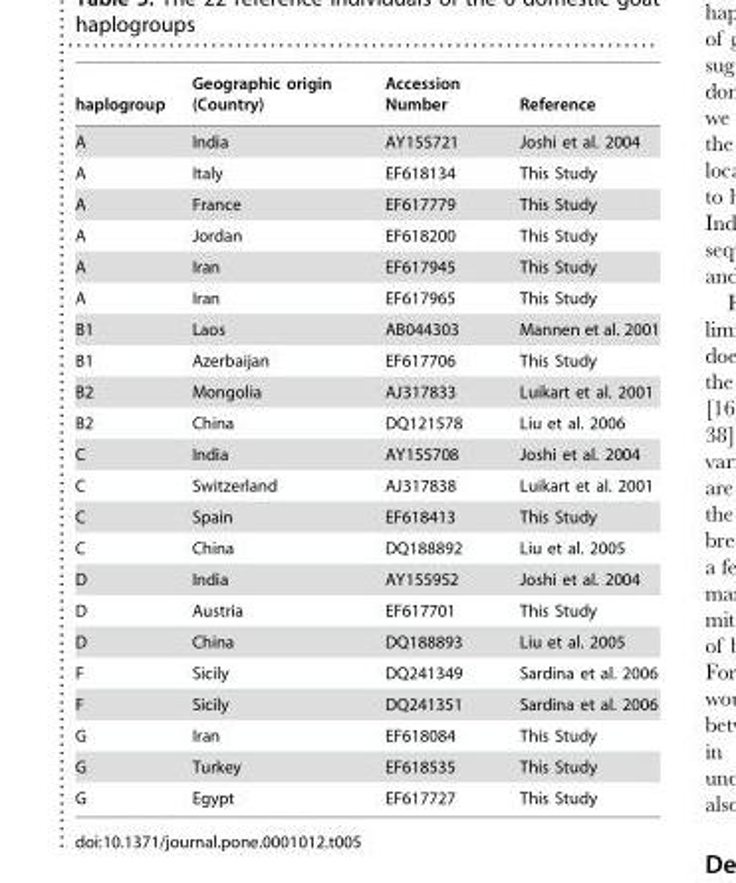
<table><thead><tr><td>haplogroup</td><td>Geographic origin (Country)</td><td>Accession Number</td><td>Reference</td></tr></thead><tbody><tr><td>A</td><td>India</td><td>AY155721</td><td>Joshi et al. 2004</td></tr><tr><td>A</td><td>Italy</td><td>EF618134</td><td>This Study</td></tr><tr><td>A</td><td>France</td><td>EF617779</td><td>This Study</td></tr><tr><td>A</td><td>Jordan</td><td>EF618200</td><td>This Study</td></tr><tr><td>A</td><td>Iran</td><td>EF617945</td><td>This Study</td></tr><tr><td>A</td><td>Iran</td><td>EF617965</td><td>This Study</td></tr><tr><td>B1</td><td>Laos</td><td>AB044303</td><td>Mannen et al. 2001</td></tr><tr><td>B1</td><td>Azerbaijan</td><td>EF617706</td><td>This Study</td></tr><tr><td>B2</td><td>Mongolia</td><td>AJ317833</td><td>Luikart et al. 2001</td></tr><tr><td>B2</td><td>China</td><td>DQ121578</td><td>Liu et al. 2006</td></tr><tr><td>C</td><td>India</td><td>AY155708</td><td>Joshi et al. 2004</td></tr><tr><td>C</td><td>Switzerland</td><td>AJ317838</td><td>Luikart et al. 2001</td></tr><tr><td>C</td><td>Spain</td><td>EF618413</td><td>This Study</td></tr><tr><td>C</td><td>China</td><td>DQ188892</td><td>Liu et al. 2005</td></tr><tr><td>D</td><td>India</td><td>AY155952</td><td>Joshi et al. 2004</td></tr><tr><td>D</td><td>Austria</td><td>EF617701</td><td>This Study</td></tr><tr><td>D</td><td>China</td><td>DQ188893</td><td>Liu et al. 2005</td></tr><tr><td>F</td><td>Sicily</td><td>DQ241349</td><td>Sardina et al. 2006</td></tr><tr><td>F</td><td>Sicily</td><td>DQ241351</td><td>Sardina et al. 2006</td></tr><tr><td>G</td><td>Iran</td><td>EF618084</td><td>This Study</td></tr><tr><td>G</td><td>Turkey</td><td>EF618535</td><td>This Study</td></tr><tr><td>G</td><td>Egypt</td><td>EF617727</td><td>This Study</td></tr></tbody></table>